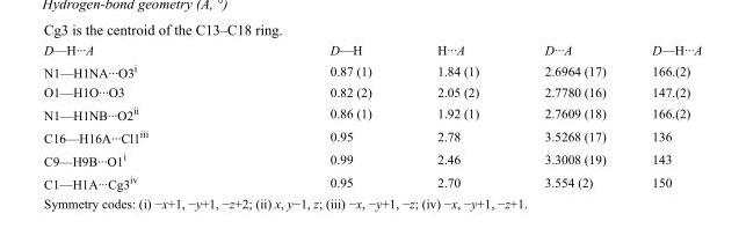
<table><tbody><tr><td>D—H···A</td><td>D—H</td><td>H···A</td><td>D···A</td><td>D—H···A</td></tr><tr><td>N1—H1NA···O3<sup>i</sup></td><td>0.87 (1)</td><td>1.84 (1)</td><td>2.6964 (17)</td><td>166.(2)</td></tr><tr><td>O1—H1O···O3</td><td>0.82 (2)</td><td>2.05 (2)</td><td>2.7780 (16)</td><td>147.(2)</td></tr><tr><td>N1—H1NB···O2<sup>ii</sup></td><td>0.86 (1)</td><td>1.92 (1)</td><td>2.7609 (18)</td><td>166.(2)</td></tr><tr><td>C16—H16A···Cl1<sup>iii</sup></td><td>0.95</td><td>2.78</td><td>3.5268 (17)</td><td>136</td></tr><tr><td>C9—H9B···O1<sup>i</sup></td><td>0.99</td><td>2.46</td><td>3.3008 (19)</td><td>143</td></tr><tr><td>C1—H1A···Cg3<sup>iv</sup></td><td>0.95</td><td>2.70</td><td>3.554 (2)</td><td>150</td></tr></tbody></table>